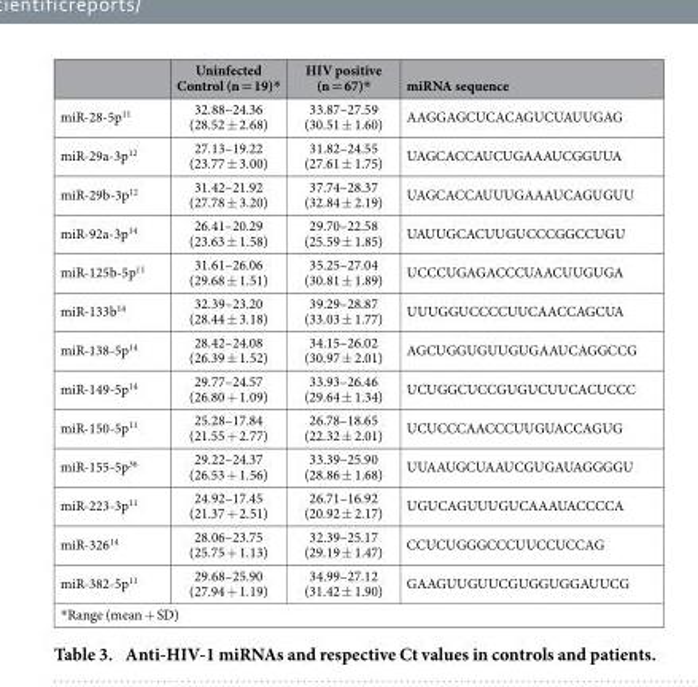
<table><thead><tr><td></td><td>Uninfected Control (n = 19)*</td><td>HIV positive (n = 67)*</td><td>miRNA sequence</td></tr></thead><tbody><tr><td>miR-28-5p<sup>11</sup></td><td>32.88–24.36 (28.52 ± 2.68)</td><td>33.87–27.59 (30.51 ± 1.60)</td><td>AAGGAGCUCACAGUCUAUUGAG</td></tr><tr><td>miR-29a-3p<sup>12</sup></td><td>27.13–19.22 (23.77 ± 3.00)</td><td>31.82–24.55 (27.61 ± 1.75)</td><td>UAGCACCAUCUGAAAUCGGUUA</td></tr><tr><td>miR-29b-3p<sup>12</sup></td><td>31.42–21.92 (27.78 ± 3.20)</td><td>37.74–28.37 (32.84 ± 2.19)</td><td>UAGCACCAUUUGAAAUCAGUGUU</td></tr><tr><td>miR-92a-3p<sup>14</sup></td><td>26.41–20.29 (23.63 ± 1.58)</td><td>29.70–22.58 (25.59 ± 1.85)</td><td>UAUUGCACUUGUCCCGGCCUGU</td></tr><tr><td>miR-125b-5p<sup>11</sup></td><td>31.61–26.06 (29.68 ± 1.51)</td><td>35.25–27.04 (30.81 ± 1.89)</td><td>UCCCUGAGACCCUAACUUGUGA</td></tr><tr><td>miR-133b<sup>14</sup></td><td>32.39–23.20 (28.44 ± 3.18)</td><td>39.29–28.87 (33.03 ± 1.77)</td><td>UUUGGUCCCCUUCAACCAGCUA</td></tr><tr><td>miR-138-5p<sup>14</sup></td><td>28.42–24.08 (26.39 ± 1.52)</td><td>34.15–26.02 (30.97 ± 2.01)</td><td>AGCUGGUGUUGUGAAUCAGGCCG</td></tr><tr><td>miR-149-5p<sup>14</sup></td><td>29.77–24.57 (26.80 + 1.09)</td><td>33.93–26.46 (29.64 ± 1.34)</td><td>UCUGGCUCCGUGUCUUCACUCCC</td></tr><tr><td>miR-150-5p<sup>11</sup></td><td>25.28–17.84 (21.55 + 2.77)</td><td>26.78–18.65 (22.32 ± 2.01)</td><td>UCUCCCAACCCUUGUACCAGUG</td></tr><tr><td>miR-155-5p<sup>36</sup></td><td>29.22–24.37 (26.53 + 1.56)</td><td>33.39–25.90 (28.86 ± 1.68)</td><td>UUAAUGCUAAUCGUGAUAGGGGU</td></tr><tr><td>miR-223-3p<sup>11</sup></td><td>24.92–17.45 (21.37 + 2.51)</td><td>26.71–16.92 (20.92 ± 2.17)</td><td>UGUCAGUUUGUCAAAUACCCCA</td></tr><tr><td>miR-326<sup>14</sup></td><td>28.06–23.75 (25.75 + 1.13)</td><td>32.39–25.17 (29.19 ± 1.47)</td><td>CCUCUGGGCCCUUCCUCCAG</td></tr><tr><td>miR-382-5p<sup>11</sup></td><td>29.68–25.90 (27.94 + 1.19)</td><td>34.99–27.12 (31.42 ± 1.90)</td><td>GAAGUUGUUCGUGGUGGAUUCG</td></tr><tr><td colspan="4">* Range (mean + SD)</td></tr></tbody></table>